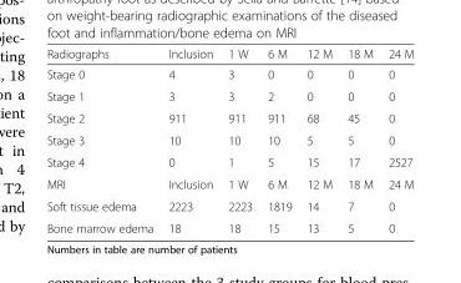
<table><thead><tr><td>Radiographs</td><td>Inclusion</td><td>1 W</td><td>6 M</td><td>12 M</td><td>18 M</td><td>24 M</td></tr></thead><tbody><tr><td>Stage 0</td><td>4</td><td>3</td><td>0</td><td>0</td><td>0</td><td>0</td></tr><tr><td>Stage 1</td><td>3</td><td>3</td><td>2</td><td>0</td><td>0</td><td>0</td></tr><tr><td>Stage 2</td><td>911</td><td>911</td><td>911</td><td>68</td><td>45</td><td>0</td></tr><tr><td>Stage 3</td><td>10</td><td>10</td><td>10</td><td>5</td><td>5</td><td>0</td></tr><tr><td>Stage 4</td><td>0</td><td>1</td><td>5</td><td>15</td><td>17</td><td>2527</td></tr><tr><td>MRI</td><td>Inclusion</td><td>1 W</td><td>6 M</td><td>12 M</td><td>18 M</td><td>24 M</td></tr><tr><td>Soft tissue edema</td><td>2223</td><td>2223</td><td>1819</td><td>14</td><td>7</td><td>0</td></tr><tr><td>Bone marrow edema</td><td>18</td><td>18</td><td>15</td><td>13</td><td>5</td><td>0</td></tr></tbody></table>